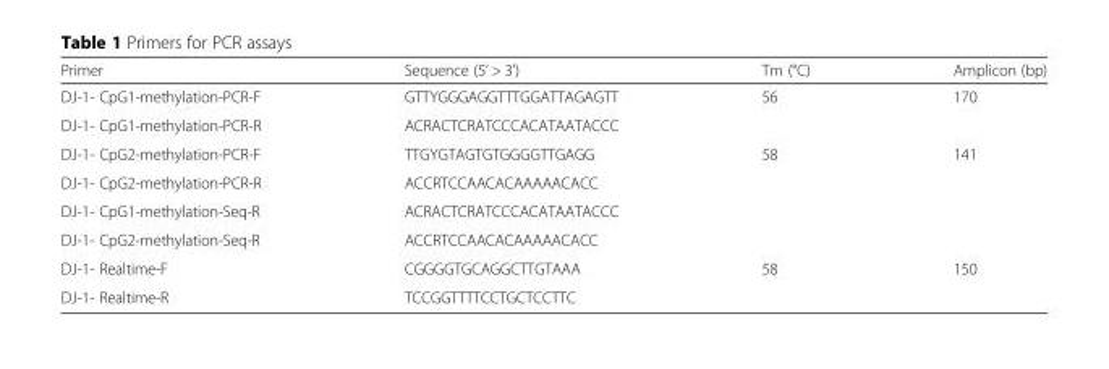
<table><thead><tr><td>Primer</td><td>Sequence (5’ &gt; 3’)</td><td>Tm (°C)</td><td>Amplicon (bp)</td></tr></thead><tbody><tr><td>DJ-1- CpG1-methylation-PCR-F</td><td>GTTYGGGAGGTTTGGATTAGAGTT</td><td>56</td><td>170</td></tr><tr><td>DJ-1- CpG1-methylation-PCR-R</td><td>ACRACTCRATCCCACATAATACCC</td><td></td><td></td></tr><tr><td>DJ-1- CpG2-methylation-PCR-F</td><td>TTGYGTAGTGTGGGGTTGAGG</td><td>58</td><td>141</td></tr><tr><td>DJ-1- CpG2-methylation-PCR-R</td><td>ACCRTCCAACACAAAAACACC</td><td></td><td></td></tr><tr><td>DJ-1- CpG1-methylation-Seq-R</td><td>ACRACTCRATCCCACATAATACCC</td><td></td><td></td></tr><tr><td>DJ-1- CpG2-methylation-Seq-R</td><td>ACCRTCCAACACAAAAACACC</td><td></td><td></td></tr><tr><td>DJ-1- Realtime-F</td><td>CGGGGTGCAGGCTTGTAAA</td><td>58</td><td>150</td></tr><tr><td>DJ-1- Realtime-R</td><td>TCCGGTTTTCCTGCTCCTTC</td><td></td><td></td></tr></tbody></table>